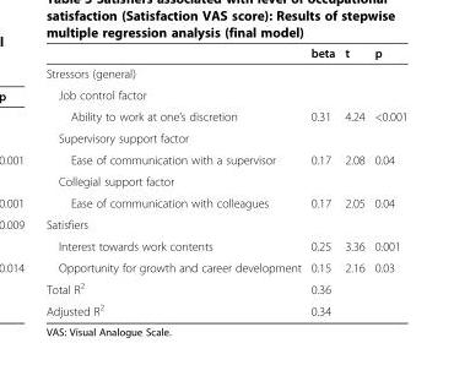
<table><thead><tr><td></td><td>beta</td><td>t</td><td>p</td></tr></thead><tbody><tr><td colspan="4">Stressors (general)</td></tr><tr><td colspan="4">Job control factor</td></tr><tr><td>Ability to work at one’s discretion</td><td>0.31</td><td>4.24</td><td>&lt;0.001</td></tr><tr><td colspan="4">Supervisory support factor</td></tr><tr><td>Ease of communication with a supervisor</td><td>0.17</td><td>2.08</td><td>0.04</td></tr><tr><td colspan="4">Collegial support factor</td></tr><tr><td>Ease of communication with colleagues</td><td>0.17</td><td>2.05</td><td>0.04</td></tr><tr><td colspan="4">Satisfiers</td></tr><tr><td>Interest towards work contents</td><td>0.25</td><td>3.36</td><td>0.001</td></tr><tr><td>Opportunity for growth and career development</td><td>0.15</td><td>2.16</td><td>0.03</td></tr><tr><td>Total R<sup>2</sup></td><td>0.36</td><td></td><td></td></tr><tr><td>Adjusted R<sup>2</sup></td><td>0.34</td><td></td><td></td></tr></tbody></table>